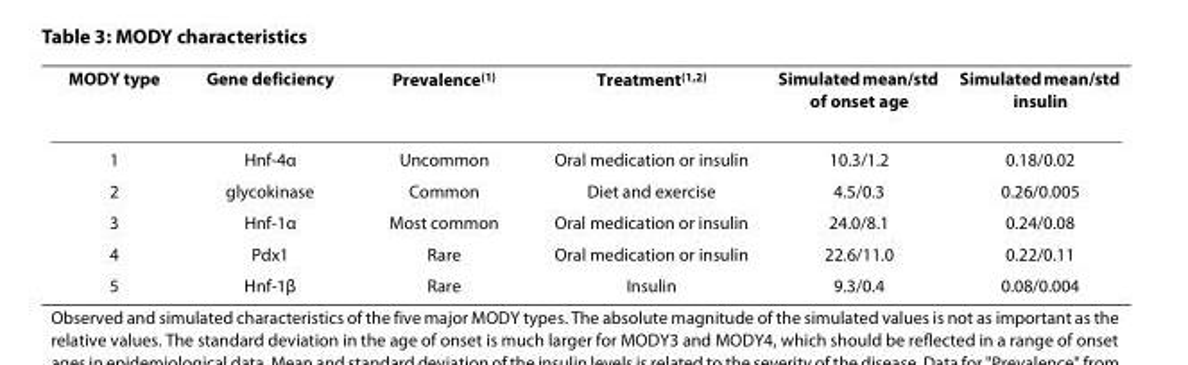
<table><thead><tr><td>MODY type</td><td>Gene deficiency</td><td>Prevalence<sup>(1)</sup></td><td>Treatment<sup>(1,2)</sup></td><td>Simulated mean/std of onset age</td><td>Simulated mean/std insulin</td></tr></thead><tbody><tr><td>1</td><td>Hnf-4α</td><td>Uncommon</td><td>Oral medication or insulin</td><td>10.3/1.2</td><td>0.18/0.02</td></tr><tr><td>2</td><td>glycokinase</td><td>Common</td><td>Diet and exercise</td><td>4.5/0.3</td><td>0.26/0.005</td></tr><tr><td>3</td><td>Hnf-1α</td><td>Most common</td><td>Oral medication or insulin</td><td>24.0/8.1</td><td>0.24/0.08</td></tr><tr><td>4</td><td>Pdx1</td><td>Rare</td><td>Oral medication or insulin</td><td>22.6/11.0</td><td>0.22/0.11</td></tr><tr><td>5</td><td>Hnf-1β</td><td>Rare</td><td>Insulin</td><td>9.3/0.4</td><td>0.08/0.004</td></tr></tbody></table>